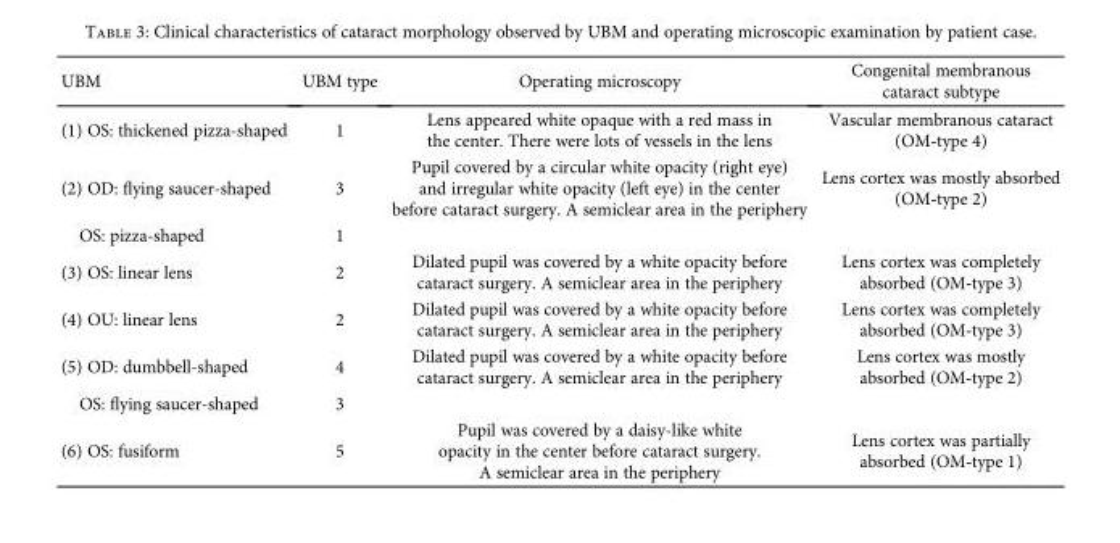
<table><thead><tr><td>UBM</td><td>UBM type</td><td>Operating microscopy</td><td>Congenital membranous cataract subtype</td></tr></thead><tbody><tr><td>(1) OS: thickened pizza-shaped</td><td>1</td><td>Lens appeared white opaque with a red mass in the center. There were lots of vessels in the lens</td><td>Vascular membranous cataract (OM-type 4)</td></tr><tr><td>(2) OD: flying saucer-shaped</td><td>3</td><td>Pupil covered by a circular white opacity (right eye) and irregular white opacity (left eye) in the center before cataract surgery. A semiclear area in the periphery</td><td>Lens cortex was mostly absorbed (OM-type 2)</td></tr><tr><td>OS: pizza-shaped</td><td>1</td><td></td><td></td></tr><tr><td>(3) OS: linear lens</td><td>2</td><td>Dilated pupil was covered by a white opacity before cataract surgery. A semiclear area in the periphery</td><td>Lens cortex was completely absorbed (OM-type 3)</td></tr><tr><td>(4) OU: linear lens</td><td>2</td><td>Dilated pupil was covered by a white opacity before cataract surgery. A semiclear area in the periphery</td><td>Lens cortex was completely absorbed (OM-type 3)</td></tr><tr><td>(5) OD: dumbbell-shaped</td><td>4</td><td>Dilated pupil was covered by a white opacity before cataract surgery. A semiclear area in the periphery</td><td>Lens cortex was mostly absorbed (OM-type 2)</td></tr><tr><td>OS: flying saucer-shaped</td><td>3</td><td></td><td></td></tr><tr><td>(6) OS: fusiform</td><td>5</td><td>Pupil was covered by a daisy-like white opacity in the center before cataract surgery. A semiclear area in the periphery</td><td>Lens cortex was partially absorbed (OM-type 1)</td></tr></tbody></table>